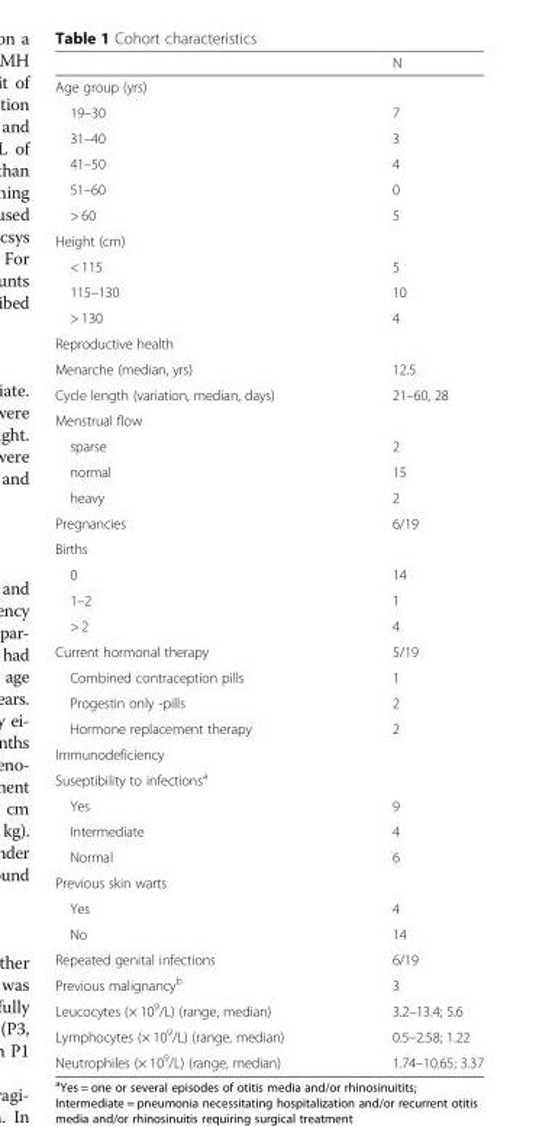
<table><thead><tr><td></td><td>N</td></tr></thead><tbody><tr><td colspan="2">Age group (yrs)</td></tr><tr><td>19–30</td><td>7</td></tr><tr><td>31–40</td><td>3</td></tr><tr><td>41–50</td><td>4</td></tr><tr><td>51–60</td><td>0</td></tr><tr><td>&gt; 60</td><td>5</td></tr><tr><td colspan="2">Height (cm)</td></tr><tr><td>&lt; 115</td><td>5</td></tr><tr><td>115–130</td><td>10</td></tr><tr><td>&gt; 130</td><td>4</td></tr><tr><td colspan="2">Reproductive health</td></tr><tr><td>Menarche (median, yrs)</td><td>12.5</td></tr><tr><td>Cycle length (variation, median, days)</td><td>21–60, 28</td></tr><tr><td colspan="2">Menstrual flow</td></tr><tr><td>sparse</td><td>2</td></tr><tr><td>normal</td><td>15</td></tr><tr><td>heavy</td><td>2</td></tr><tr><td>Pregnancies</td><td>6/19</td></tr><tr><td colspan="2">Births</td></tr><tr><td>0</td><td>14</td></tr><tr><td>1–2</td><td>1</td></tr><tr><td>&gt; 2</td><td>4</td></tr><tr><td>Current hormonal therapy</td><td>5/19</td></tr><tr><td>Combined contraception pills</td><td>1</td></tr><tr><td>Progestin only -pills</td><td>2</td></tr><tr><td>Hormone replacement therapy</td><td>2</td></tr><tr><td colspan="2">Immunodeficiency</td></tr><tr><td colspan="2">Suseptibility to infections<sup>a</sup></td></tr><tr><td>Yes</td><td>9</td></tr><tr><td>Intermediate</td><td>4</td></tr><tr><td>Normal</td><td>6</td></tr><tr><td colspan="2">Previous skin warts</td></tr><tr><td>Yes</td><td>4</td></tr><tr><td>No</td><td>14</td></tr><tr><td>Repeated genital infections</td><td>6/19</td></tr><tr><td>Previous malignancy<sup>b</sup></td><td>3</td></tr><tr><td>Leucocytes (× 10<sup>9</sup>/L) (range, median)</td><td>3.2–13.4; 5.6</td></tr><tr><td>Lymphocytes (× 10<sup>9</sup>/L) (range, median)</td><td>0.5–2.58; 1.22</td></tr><tr><td>Neutrophiles (× 10<sup>9</sup>/L) (range, median)</td><td>1.74–10.65; 3.37</td></tr></tbody></table>